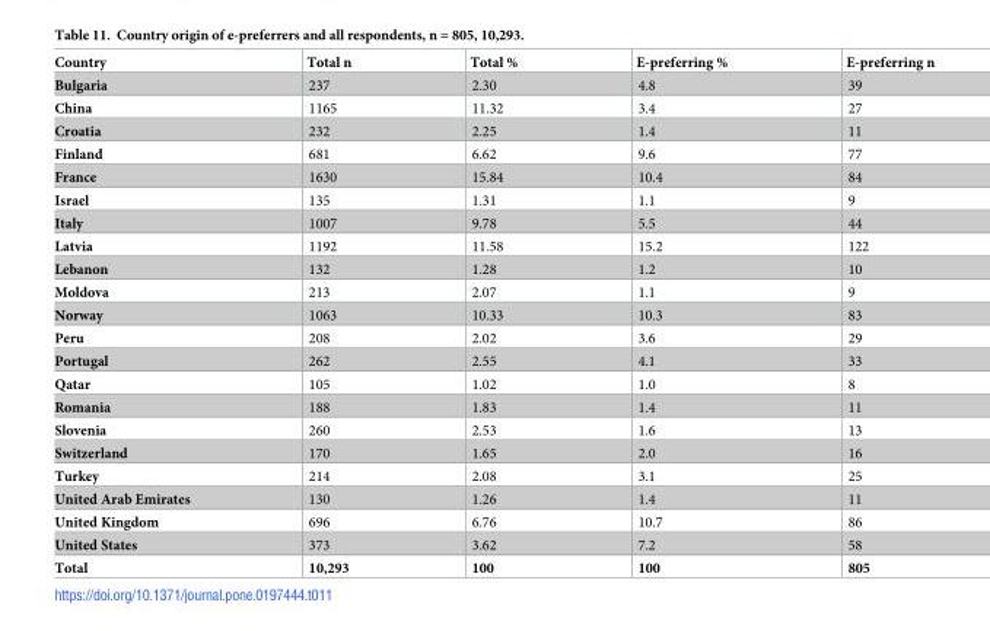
<table><thead><tr><td>Country</td><td>Total n</td><td>Total %</td><td>E-preferring %</td><td>E-preferring n</td></tr></thead><tbody><tr><td>Bulgaria</td><td>237</td><td>2.30</td><td>4.8</td><td>39</td></tr><tr><td>China</td><td>1165</td><td>11.32</td><td>3.4</td><td>27</td></tr><tr><td>Croatia</td><td>232</td><td>2.25</td><td>1.4</td><td>11</td></tr><tr><td>Finland</td><td>681</td><td>6.62</td><td>9.6</td><td>77</td></tr><tr><td>France</td><td>1630</td><td>15.84</td><td>10.4</td><td>84</td></tr><tr><td>Israel</td><td>135</td><td>1.31</td><td>1.1</td><td>9</td></tr><tr><td>Italy</td><td>1007</td><td>9.78</td><td>5.5</td><td>44</td></tr><tr><td>Latvia</td><td>1192</td><td>11.58</td><td>15.2</td><td>122</td></tr><tr><td>Lebanon</td><td>132</td><td>1.28</td><td>1.2</td><td>10</td></tr><tr><td>Moldova</td><td>213</td><td>2.07</td><td>1.1</td><td>9</td></tr><tr><td>Norway</td><td>1063</td><td>10.33</td><td>10.3</td><td>83</td></tr><tr><td>Peru</td><td>208</td><td>2.02</td><td>3.6</td><td>29</td></tr><tr><td>Portugal</td><td>262</td><td>2.55</td><td>4.1</td><td>33</td></tr><tr><td>Qatar</td><td>105</td><td>1.02</td><td>1.0</td><td>8</td></tr><tr><td>Romania</td><td>188</td><td>1.83</td><td>1.4</td><td>11</td></tr><tr><td>Slovenia</td><td>260</td><td>2.53</td><td>1.6</td><td>13</td></tr><tr><td>Switzerland</td><td>170</td><td>1.65</td><td>2.0</td><td>16</td></tr><tr><td>Turkey</td><td>214</td><td>2.08</td><td>3.1</td><td>25</td></tr><tr><td>United Arab Emirates</td><td>130</td><td>1.26</td><td>1.4</td><td>11</td></tr><tr><td>United Kingdom</td><td>696</td><td>6.76</td><td>10.7</td><td>86</td></tr><tr><td>United States</td><td>373</td><td>3.62</td><td>7.2</td><td>58</td></tr><tr><td>Total</td><td>10,293</td><td>100</td><td>100</td><td>805</td></tr></tbody></table>